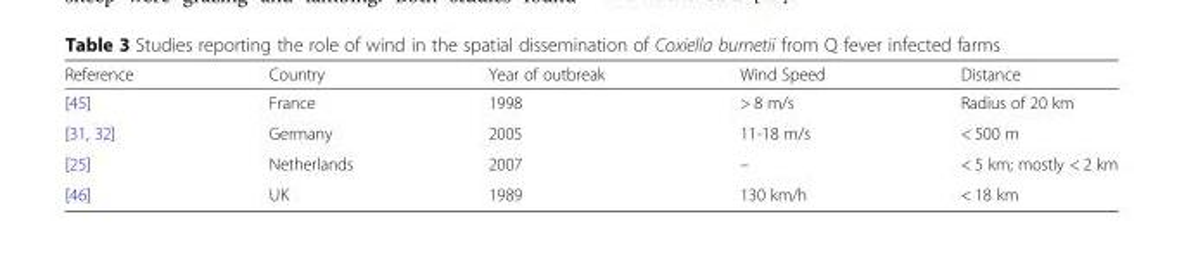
<table><thead><tr><td>Reference</td><td>Country</td><td>Year of outbreak</td><td>Wind Speed</td><td>Distance</td></tr></thead><tbody><tr><td>[45]</td><td>France</td><td>1998</td><td>&gt; 8 m/s</td><td>Radius of 20 km</td></tr><tr><td>[31, 32]</td><td>Germany</td><td>2005</td><td>11-18 m/s</td><td>&lt; 500 m</td></tr><tr><td>[25]</td><td>Netherlands</td><td>2007</td><td>–</td><td>&lt; 5 km; mostly &lt; 2 km</td></tr><tr><td>[46]</td><td>UK</td><td>1989</td><td>130 km/h</td><td>&lt; 18 km</td></tr></tbody></table>